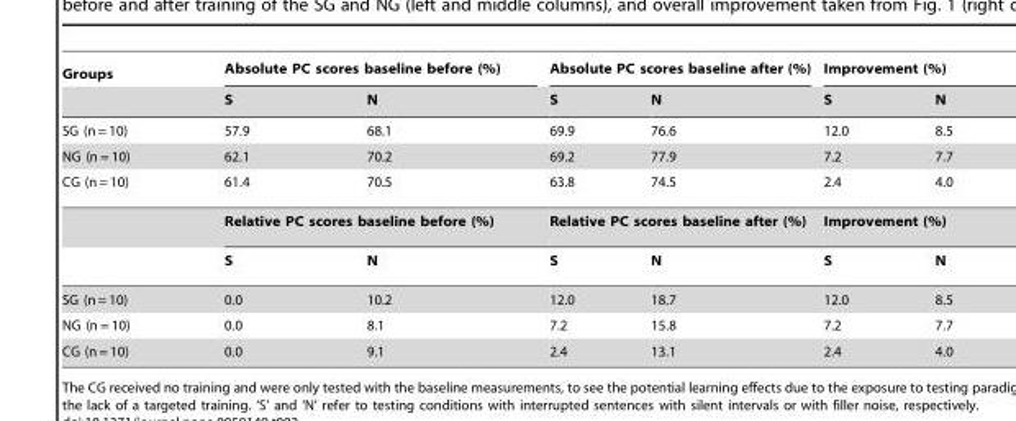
<table><thead><tr><td rowspan="2">Groups</td><td colspan="2">Absolute PC scores baseline before (%)</td><td colspan="2">Absolute PC scores baseline after (%)</td><td colspan="2">Improvement (%)</td></tr><tr><td>S</td><td>N</td><td>S</td><td>N</td><td>S</td><td>N</td></tr></thead><tbody><tr><td>SG (n = 10)</td><td>57.9</td><td>68.1</td><td>69.9</td><td>76.6</td><td>12.0</td><td>8.5</td></tr><tr><td>NG (n = 10)</td><td>62.1</td><td>70.2</td><td>69.2</td><td>77.9</td><td>7.2</td><td>7.7</td></tr><tr><td rowspan="3">CG (n = 10)</td><td>61.4</td><td>70.5</td><td>63.8</td><td>74.5</td><td>2.4</td><td>4.0</td></tr><tr><td colspan="2">Relative PC scores baseline before (%)</td><td colspan="2">Relative PC scores baseline after (%)</td><td colspan="2">Improvement (%)</td></tr><tr><td>S</td><td>N</td><td>S</td><td>N</td><td>S</td><td>N</td></tr><tr><td>SG (n = 10)</td><td>0.0</td><td>10.2</td><td>12.0</td><td>18.7</td><td>12.0</td><td>8.5</td></tr><tr><td>NG (n = 10)</td><td>0.0</td><td>8.1</td><td>7.2</td><td>15.8</td><td>7.2</td><td>7.7</td></tr><tr><td>CG (n = 10)</td><td>0.0</td><td>9.1</td><td>2.4</td><td>13.1</td><td>2.4</td><td>4.0</td></tr></tbody></table>